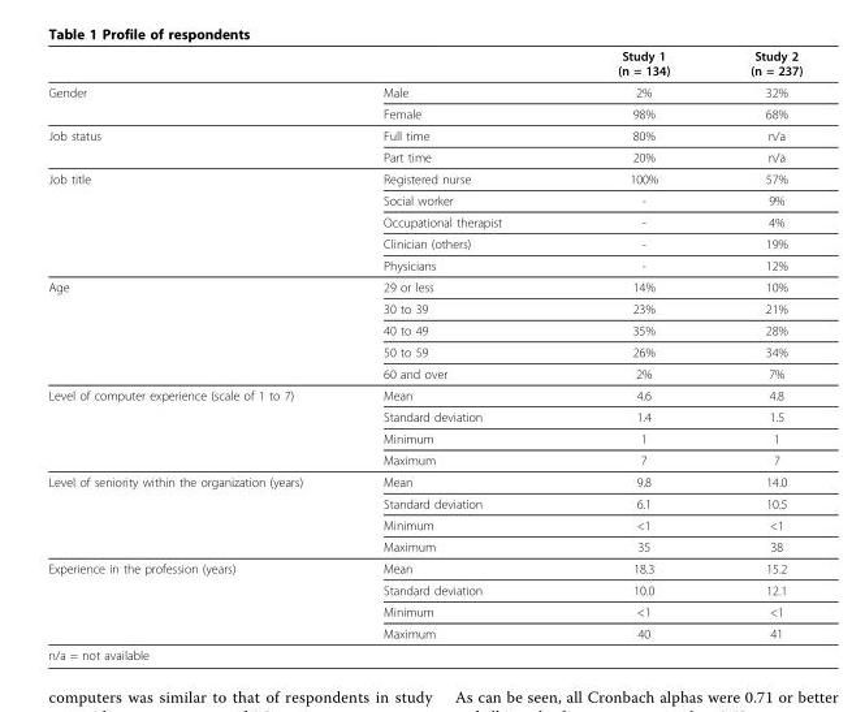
<table><thead><tr><td></td><td></td><td>Study 1 (n = 134)</td><td>Study 2 (n = 237)</td></tr></thead><tbody><tr><td rowspan="2">Gender</td><td>Male</td><td>2%</td><td>32%</td></tr><tr><td>Female</td><td>98%</td><td>68%</td></tr><tr><td rowspan="2">Job status</td><td>Full time</td><td>80%</td><td>n/a</td></tr><tr><td>Part time</td><td>20%</td><td>n/a</td></tr><tr><td rowspan="5">Job title</td><td>Registered nurse</td><td>100%</td><td>57%</td></tr><tr><td>Social worker</td><td>-</td><td>9%</td></tr><tr><td>Occupational therapist</td><td>-</td><td>4%</td></tr><tr><td>Clinician (others)</td><td>-</td><td>19%</td></tr><tr><td>Physicians</td><td>-</td><td>12%</td></tr><tr><td rowspan="5">Age</td><td>29 or less</td><td>14%</td><td>10%</td></tr><tr><td>30 to 39</td><td>23%</td><td>21%</td></tr><tr><td>40 to 49</td><td>35%</td><td>28%</td></tr><tr><td>50 to 59</td><td>26%</td><td>34%</td></tr><tr><td>60 and over</td><td>2%</td><td>7%</td></tr><tr><td rowspan="4">Level of computer experience (scale of 1 to 7)</td><td>Mean</td><td>4.6</td><td>4.8</td></tr><tr><td>Standard deviation</td><td>1.4</td><td>1.5</td></tr><tr><td>Minimum</td><td>1</td><td>1</td></tr><tr><td>Maximum</td><td>7</td><td>7</td></tr><tr><td rowspan="4">Level of seniority within the organization (years)</td><td>Mean</td><td>9.8</td><td>14.0</td></tr><tr><td>Standard deviation</td><td>6.1</td><td>10.5</td></tr><tr><td>Minimum</td><td>&lt;1</td><td>&lt;1</td></tr><tr><td>Maximum</td><td>35</td><td>38</td></tr><tr><td rowspan="4">Experience in the profession (years)</td><td>Mean</td><td>18.3</td><td>15.2</td></tr><tr><td>Standard deviation</td><td>10.0</td><td>12.1</td></tr><tr><td>Minimum</td><td>&lt;1</td><td>&lt;1</td></tr><tr><td>Maximum</td><td>40</td><td>41</td></tr><tr><td colspan="4">n/a = not available</td></tr></tbody></table>